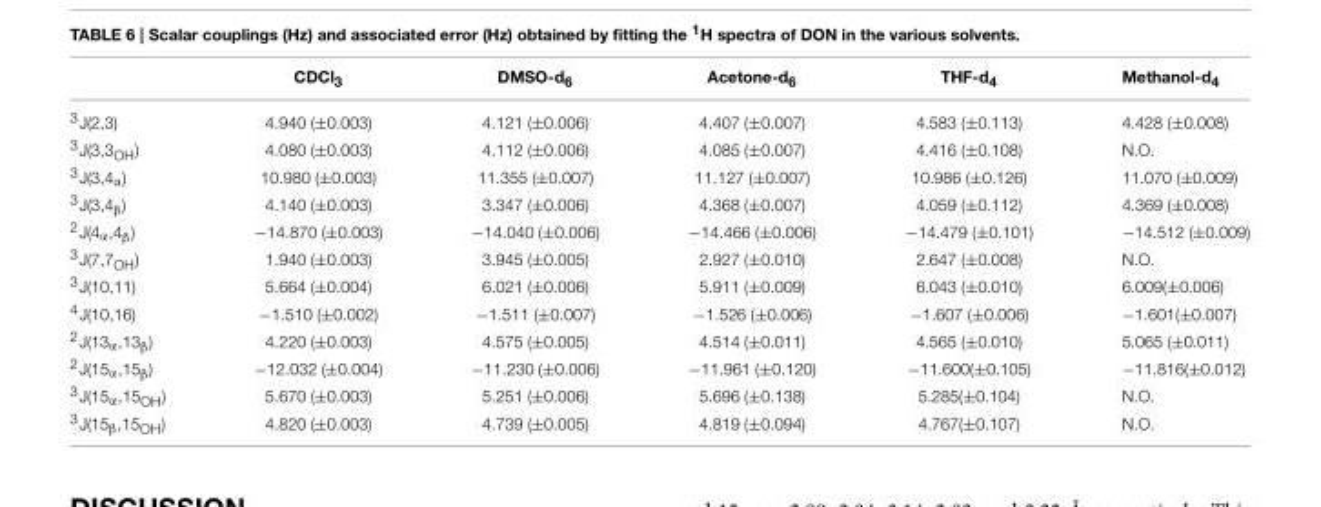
<table><thead><tr><td></td><td>CDCl<sub>3</sub></td><td>DMSO-d<sub>6</sub></td><td>Acetone-d<sub>6</sub></td><td>THF-d<sub>4</sub></td><td>Methanol-d<sub>4</sub></td></tr></thead><tbody><tr><td><sup>3</sup>J(2,3)</td><td>4.940 (±0.003)</td><td>4.121 (±0.006)</td><td>4.407 (±0.007)</td><td>4.583 (±0.113)</td><td>4.428 (±0.008)</td></tr><tr><td><sup>3</sup>J(3,3<sub>OH</sub>)</td><td>4.080 (±0.003)</td><td>4.112 (±0.006)</td><td>4.085 (±0.007)</td><td>4.416 (±0.108)</td><td>N.O.</td></tr><tr><td><sup>3</sup>J(3,4<sub>α</sub>)</td><td>10.980 (±0.003)</td><td>11.355 (±0.007)</td><td>11.127 (±0.007)</td><td>10.986 (±0.126)</td><td>11.070 (±0.009)</td></tr><tr><td><sup>3</sup>J(3,4<sub>β</sub>)</td><td>4.140 (±0.003)</td><td>3.347 (±0.006)</td><td>4.368 (±0.007)</td><td>4.059 (±0.112)</td><td>4.369 (±0.008)</td></tr><tr><td><sup>2</sup>J(4<sub>α</sub>,4<sub>β</sub>)</td><td>−14.870 (±0.003)</td><td>−14.040 (±0.006)</td><td>−14.466 (±0.006)</td><td>−14.479 (±0.101)</td><td>−14.512 (±0.009)</td></tr><tr><td><sup>3</sup>J(7,7<sub>OH</sub>)</td><td>1.940 (±0.003)</td><td>3.945 (±0.005)</td><td>2.927 (±0.010)</td><td>2.647 (±0.008)</td><td>N.O.</td></tr><tr><td><sup>3</sup>J(10,11)</td><td>5.664 (±0.004)</td><td>6.021 (±0.006)</td><td>5.911 (±0.009)</td><td>6.043 (±0.010)</td><td>6.009(±0.006)</td></tr><tr><td><sup>4</sup>J(10,16)</td><td>−1.510 (±0.002)</td><td>−1.511 (±0.007)</td><td>−1.526 (±0.006)</td><td>−1.607 (±0.006)</td><td>−1.601(±0.007)</td></tr><tr><td><sup>2</sup>J(13<sub>α</sub>,13<sub>β</sub>)</td><td>4.220 (±0.003)</td><td>4.575 (±0.005)</td><td>4.514 (±0.011)</td><td>4.565 (±0.010)</td><td>5.065 (±0.011)</td></tr><tr><td><sup>2</sup>J(15<sub>α</sub>,15<sub>β</sub>)</td><td>−12.032 (±0.004)</td><td>−11.230 (±0.006)</td><td>−11.961 (±0.120)</td><td>−11.600(±0.105)</td><td>−11.816(±0.012)</td></tr><tr><td><sup>3</sup>J(15<sub>α</sub>,15<sub>OH</sub>)</td><td>5.670 (±0.003)</td><td>5.251 (±0.006)</td><td>5.696 (±0.138)</td><td>5.285(±0.104)</td><td>N.O.</td></tr><tr><td><sup>3</sup>J(15<sub>β</sub>,15<sub>OH</sub>)</td><td>4.820 (±0.003)</td><td>4.739 (±0.005)</td><td>4.819 (±0.094)</td><td>4.767(±0.107)</td><td>N.O.</td></tr></tbody></table>